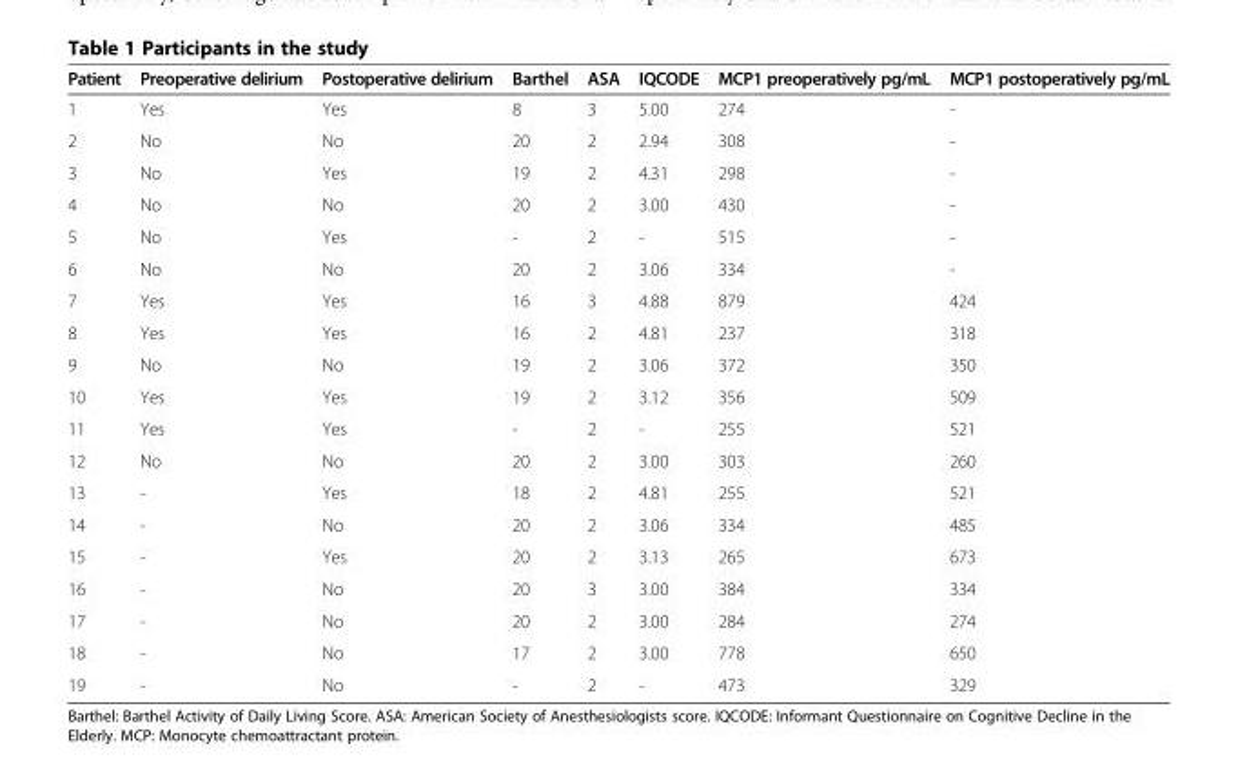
<table><thead><tr><td>Patient</td><td>Preoperative delirium</td><td>Postoperative delirium</td><td>Barthel</td><td>ASA</td><td>IQCODE</td><td>MCP1 preoperatively pg/mL</td><td>MCP1 postoperatively pg/mL</td></tr></thead><tbody><tr><td>1</td><td>Yes</td><td>Yes</td><td>8</td><td>3</td><td>5.00</td><td>274</td><td>-</td></tr><tr><td>2</td><td>No</td><td>No</td><td>20</td><td>2</td><td>2.94</td><td>308</td><td>-</td></tr><tr><td>3</td><td>No</td><td>Yes</td><td>19</td><td>2</td><td>4.31</td><td>298</td><td>-</td></tr><tr><td>4</td><td>No</td><td>No</td><td>20</td><td>2</td><td>3.00</td><td>430</td><td>-</td></tr><tr><td>5</td><td>No</td><td>Yes</td><td>-</td><td>2</td><td>-</td><td>515</td><td>-</td></tr><tr><td>6</td><td>No</td><td>No</td><td>20</td><td>2</td><td>3.06</td><td>334</td><td>-</td></tr><tr><td>7</td><td>Yes</td><td>Yes</td><td>16</td><td>3</td><td>4.88</td><td>879</td><td>424</td></tr><tr><td>8</td><td>Yes</td><td>Yes</td><td>16</td><td>2</td><td>4.81</td><td>237</td><td>318</td></tr><tr><td>9</td><td>No</td><td>No</td><td>19</td><td>2</td><td>3.06</td><td>372</td><td>350</td></tr><tr><td>10</td><td>Yes</td><td>Yes</td><td>19</td><td>2</td><td>3.12</td><td>356</td><td>509</td></tr><tr><td>11</td><td>Yes</td><td>Yes</td><td>-</td><td>2</td><td>-</td><td>255</td><td>521</td></tr><tr><td>12</td><td>No</td><td>No</td><td>20</td><td>2</td><td>3.00</td><td>303</td><td>260</td></tr><tr><td>13</td><td>-</td><td>Yes</td><td>18</td><td>2</td><td>4.81</td><td>255</td><td>521</td></tr><tr><td>14</td><td>-</td><td>No</td><td>20</td><td>2</td><td>3.06</td><td>334</td><td>485</td></tr><tr><td>15</td><td>-</td><td>Yes</td><td>20</td><td>2</td><td>3.13</td><td>265</td><td>673</td></tr><tr><td>16</td><td>-</td><td>No</td><td>20</td><td>3</td><td>3.00</td><td>384</td><td>334</td></tr><tr><td>17</td><td>-</td><td>No</td><td>20</td><td>2</td><td>3.00</td><td>284</td><td>274</td></tr><tr><td>18</td><td>-</td><td>No</td><td>17</td><td>2</td><td>3.00</td><td>778</td><td>650</td></tr><tr><td>19</td><td>-</td><td>No</td><td>-</td><td>2</td><td>-</td><td>473</td><td>329</td></tr></tbody></table>